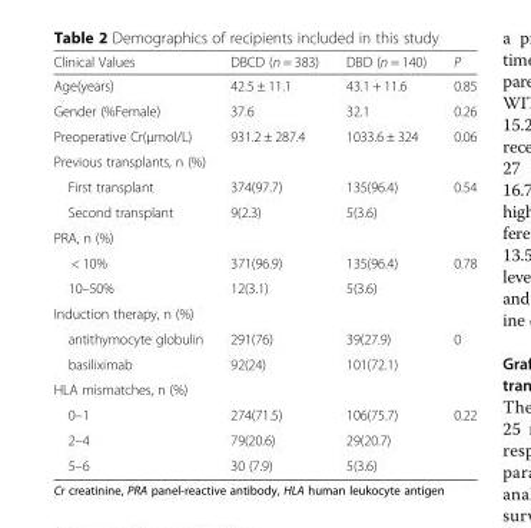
<table><thead><tr><td>Clinical Values</td><td>DBCD (n = 383)</td><td>DBD (n = 140)</td><td>P</td></tr></thead><tbody><tr><td>Age(years)</td><td>42.5 ± 11.1</td><td>43.1 + 11.6</td><td>0.85</td></tr><tr><td>Gender (%Female)</td><td>37.6</td><td>32.1</td><td>0.26</td></tr><tr><td>Preoperative Cr(μmol/L)</td><td>931.2 ± 287.4</td><td>1033.6 ± 324</td><td>0.06</td></tr><tr><td colspan="4">Previous transplants, n (%)</td></tr><tr><td>First transplant</td><td>374(97.7)</td><td>135(96.4)</td><td rowspan="2">0.54</td></tr><tr><td>Second transplant</td><td>9(2.3)</td><td>5(3.6)</td></tr><tr><td colspan="4">PRA, n (%)</td></tr><tr><td>&lt; 10%</td><td>371(96.9)</td><td>135(96.4)</td><td rowspan="2">0.78</td></tr><tr><td>10–50%</td><td>12(3.1)</td><td>5(3.6)</td></tr><tr><td colspan="4">Induction therapy, n (%)</td></tr><tr><td>antithymocyte globulin</td><td>291(76)</td><td>39(27.9)</td><td rowspan="2">0</td></tr><tr><td>basiliximab</td><td>92(24)</td><td>101(72.1)</td></tr><tr><td colspan="4">HLA mismatches, n (%)</td></tr><tr><td>0–1</td><td>274(71.5)</td><td>106(75.7)</td><td rowspan="3">0.22</td></tr><tr><td>2–4</td><td>79(20.6)</td><td>29(20.7)</td></tr><tr><td>5–6</td><td>30 (7.9)</td><td>5(3.6)</td></tr></tbody></table>